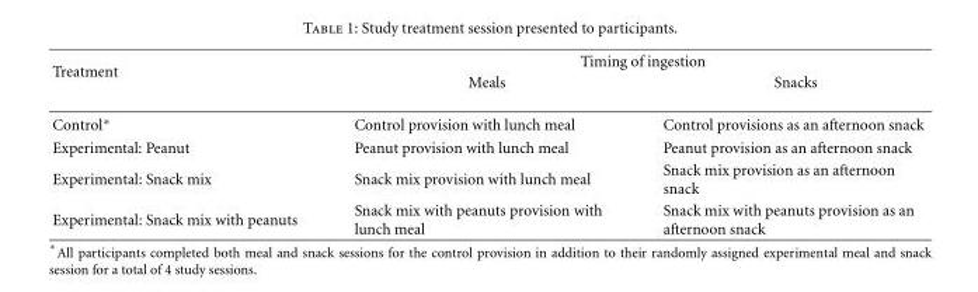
<table><thead><tr><td rowspan="2">Treatment</td><td colspan="2">Timing of ingestion</td></tr><tr><td>Meals</td><td>Snacks</td></tr></thead><tbody><tr><td>Control∗</td><td>Control provision with lunch meal</td><td>Control provisions as an afternoon snack</td></tr><tr><td>Experimental: Peanut</td><td>Peanut provision with lunch meal</td><td>Peanut provision as an afternoon snack</td></tr><tr><td>Experimental: Snack mix</td><td>Snack mix provision with lunch meal</td><td>Snack mix provision as an afternoon snack</td></tr><tr><td>Experimental: Snack mix with peanuts</td><td>Snack mix with peanuts provision with lunch meal</td><td>Snack mix with peanuts provision as an afternoon snack</td></tr></tbody></table>